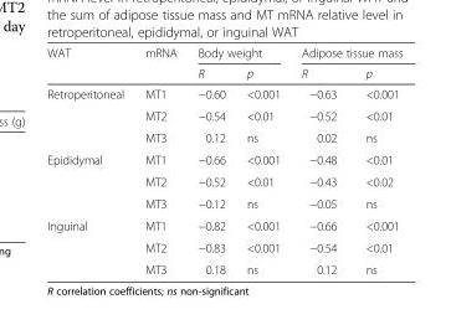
<table><thead><tr><td rowspan="2">WAT</td><td rowspan="2">mRNA</td><td colspan="2">Body weight</td><td colspan="2">Adipose tissue mass</td></tr><tr><td>R</td><td>p</td><td>R</td><td>p</td></tr></thead><tbody><tr><td rowspan="3">Retroperitoneal</td><td>MT1</td><td>−0.60</td><td>&lt;0.001</td><td>−0.63</td><td>&lt;0.001</td></tr><tr><td>MT2</td><td>−0.54</td><td>&lt;0.01</td><td>−0.52</td><td>&lt;0.01</td></tr><tr><td>MT3</td><td>0.12</td><td>ns</td><td>0.02</td><td>ns</td></tr><tr><td rowspan="3">Epididymal</td><td>MT1</td><td>−0.66</td><td>&lt;0.001</td><td>−0.48</td><td>&lt;0.01</td></tr><tr><td>MT2</td><td>−0.52</td><td>&lt;0.01</td><td>−0.43</td><td>&lt;0.02</td></tr><tr><td>MT3</td><td>−0.12</td><td>ns</td><td>−0.05</td><td>ns</td></tr><tr><td rowspan="3">Inguinal</td><td>MT1</td><td>−0.82</td><td>&lt;0.001</td><td>−0.66</td><td>&lt;0.001</td></tr><tr><td>MT2</td><td>−0.83</td><td>&lt;0.001</td><td>−0.54</td><td>&lt;0.01</td></tr><tr><td>MT3</td><td>0.18</td><td>ns</td><td>0.12</td><td>ns</td></tr></tbody></table>